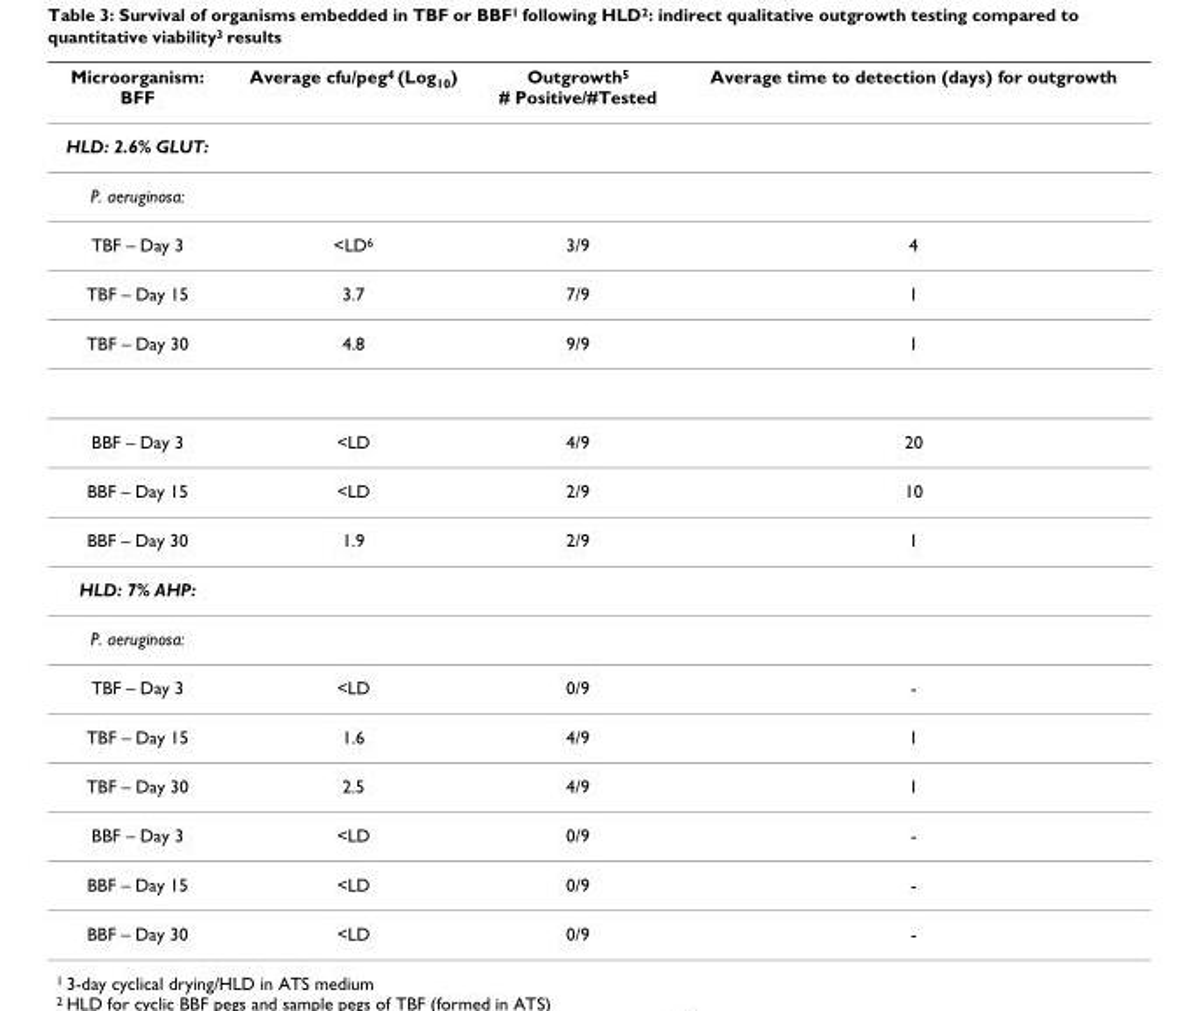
<table><thead><tr><td>Microorganism: BFF</td><td>Average cfu/peg4 (Log10)</td><td>Outgrowth5 # Positive/#Tested</td><td>Average time to detection (days) for outgrowth</td></tr></thead><tbody><tr><td colspan="4">HLD: 2.6% GLUT:</td></tr><tr><td colspan="4">P. aeruginosa:</td></tr><tr><td>TBF – Day 3</td><td>&lt;LD6</td><td>3/9</td><td>4</td></tr><tr><td>TBF – Day 15</td><td>3.7</td><td>7/9</td><td>1</td></tr><tr><td>TBF – Day 30</td><td>4.8</td><td>9/9</td><td>1</td></tr><tr><td>BBF – Day 3</td><td>&lt;LD</td><td>4/9</td><td>20</td></tr><tr><td>BBF – Day 15</td><td>&lt;LD</td><td>2/9</td><td>10</td></tr><tr><td>BBF – Day 30</td><td>1.9</td><td>2/9</td><td>1</td></tr><tr><td colspan="4">HLD: 7% AHP:</td></tr><tr><td colspan="4">P. aeruginosa:</td></tr><tr><td>TBF – Day 3</td><td>&lt;LD</td><td>0/9</td><td>-</td></tr><tr><td>TBF – Day 15</td><td>1.6</td><td>4/9</td><td>1</td></tr><tr><td>TBF – Day 30</td><td>2.5</td><td>4/9</td><td>1</td></tr><tr><td>BBF – Day 3</td><td>&lt;LD</td><td>0/9</td><td>-</td></tr><tr><td>BBF – Day 15</td><td>&lt;LD</td><td>0/9</td><td>-</td></tr><tr><td>BBF – Day 30</td><td>&lt;LD</td><td>0/9</td><td>-</td></tr></tbody></table>